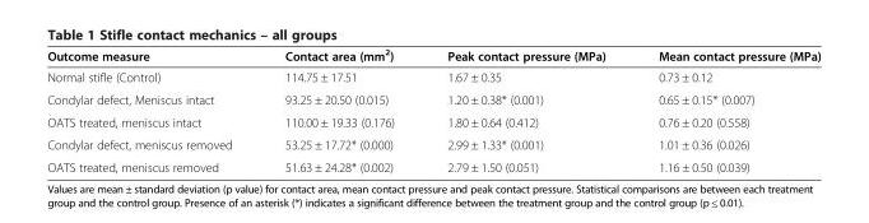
<table><thead><tr><td>Outcome measure</td><td>Contact area (mm<sup>2</sup>)</td><td>Peak contact pressure (MPa)</td><td>Mean contact pressure (MPa)</td></tr></thead><tbody><tr><td>Normal stifle (Control)</td><td>114.75 ± 17.51</td><td>1.67 ± 0.35</td><td>0.73 ± 0.12</td></tr><tr><td>Condylar defect, Meniscus intact</td><td>93.25 ± 20.50 (0.015)</td><td>1.20 ± 0.38* (0.001)</td><td>0.65 ± 0.15* (0.007)</td></tr><tr><td>OATS treated, meniscus intact</td><td>110.00 ± 19.33 (0.176)</td><td>1.80 ± 0.64 (0.412)</td><td>0.76 ± 0.20 (0.558)</td></tr><tr><td>Condylar defect, meniscus removed</td><td>53.25 ± 17.72* (0.000)</td><td>2.99 ± 1.33* (0.001)</td><td>1.01 ± 0.36 (0.026)</td></tr><tr><td>OATS treated, meniscus removed</td><td>51.63 ± 24.28* (0.002)</td><td>2.79 ± 1.50 (0.051)</td><td>1.16 ± 0.50 (0.039)</td></tr></tbody></table>